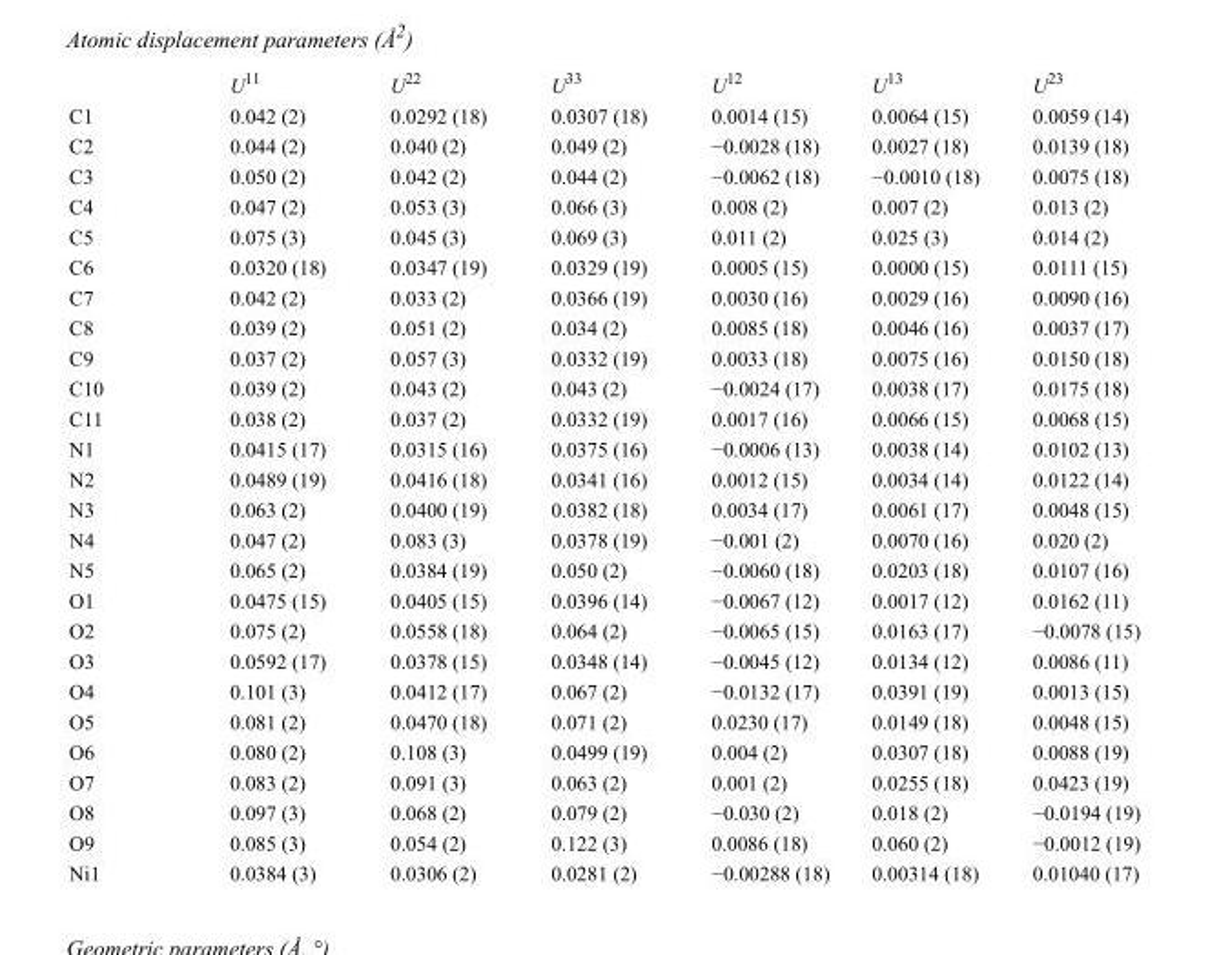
<table><thead><tr><td></td><td>U<sup>11</sup></td><td>U<sup>22</sup></td><td>U<sup>33</sup></td><td>U<sup>12</sup></td><td>U<sup>13</sup></td><td>U<sup>23</sup></td></tr></thead><tbody><tr><td>C1</td><td>0.042 (2)</td><td>0.0292 (18)</td><td>0.0307 (18)</td><td>0.0014 (15)</td><td>0.0064 (15)</td><td>0.0059 (14)</td></tr><tr><td>C2</td><td>0.044 (2)</td><td>0.040 (2)</td><td>0.049 (2)</td><td>−0.0028 (18)</td><td>0.0027 (18)</td><td>0.0139 (18)</td></tr><tr><td>C3</td><td>0.050 (2)</td><td>0.042 (2)</td><td>0.044 (2)</td><td>−0.0062 (18)</td><td>−0.0010 (18)</td><td>0.0075 (18)</td></tr><tr><td>C4</td><td>0.047 (2)</td><td>0.053 (3)</td><td>0.066 (3)</td><td>0.008 (2)</td><td>0.007 (2)</td><td>0.013 (2)</td></tr><tr><td>C5</td><td>0.075 (3)</td><td>0.045 (3)</td><td>0.069 (3)</td><td>0.011 (2)</td><td>0.025 (3)</td><td>0.014 (2)</td></tr><tr><td>C6</td><td>0.0320 (18)</td><td>0.0347 (19)</td><td>0.0329 (19)</td><td>0.0005 (15)</td><td>0.0000 (15)</td><td>0.0111 (15)</td></tr><tr><td>C7</td><td>0.042 (2)</td><td>0.033 (2)</td><td>0.0366 (19)</td><td>0.0030 (16)</td><td>0.0029 (16)</td><td>0.0090 (16)</td></tr><tr><td>C8</td><td>0.039 (2)</td><td>0.051 (2)</td><td>0.034 (2)</td><td>0.0085 (18)</td><td>0.0046 (16)</td><td>0.0037 (17)</td></tr><tr><td>C9</td><td>0.037 (2)</td><td>0.057 (3)</td><td>0.0332 (19)</td><td>0.0033 (18)</td><td>0.0075 (16)</td><td>0.0150 (18)</td></tr><tr><td>C10</td><td>0.039 (2)</td><td>0.043 (2)</td><td>0.043 (2)</td><td>−0.0024 (17)</td><td>0.0038 (17)</td><td>0.0175 (18)</td></tr><tr><td>C11</td><td>0.038 (2)</td><td>0.037 (2)</td><td>0.0332 (19)</td><td>0.0017 (16)</td><td>0.0066 (15)</td><td>0.0068 (15)</td></tr><tr><td>N1</td><td>0.0415 (17)</td><td>0.0315 (16)</td><td>0.0375 (16)</td><td>−0.0006 (13)</td><td>0.0038 (14)</td><td>0.0102 (13)</td></tr><tr><td>N2</td><td>0.0489 (19)</td><td>0.0416 (18)</td><td>0.0341 (16)</td><td>0.0012 (15)</td><td>0.0034 (14)</td><td>0.0122 (14)</td></tr><tr><td>N3</td><td>0.063 (2)</td><td>0.0400 (19)</td><td>0.0382 (18)</td><td>0.0034 (17)</td><td>0.0061 (17)</td><td>0.0048 (15)</td></tr><tr><td>N4</td><td>0.047 (2)</td><td>0.083 (3)</td><td>0.0378 (19)</td><td>−0.001 (2)</td><td>0.0070 (16)</td><td>0.020 (2)</td></tr><tr><td>N5</td><td>0.065 (2)</td><td>0.0384 (19)</td><td>0.050 (2)</td><td>−0.0060 (18)</td><td>0.0203 (18)</td><td>0.0107 (16)</td></tr><tr><td>O1</td><td>0.0475 (15)</td><td>0.0405 (15)</td><td>0.0396 (14)</td><td>−0.0067 (12)</td><td>0.0017 (12)</td><td>0.0162 (11)</td></tr><tr><td>O2</td><td>0.075 (2)</td><td>0.0558 (18)</td><td>0.064 (2)</td><td>−0.0065 (15)</td><td>0.0163 (17)</td><td>−0.0078 (15)</td></tr><tr><td>O3</td><td>0.0592 (17)</td><td>0.0378 (15)</td><td>0.0348 (14)</td><td>−0.0045 (12)</td><td>0.0134 (12)</td><td>0.0086 (11)</td></tr><tr><td>O4</td><td>0.101 (3)</td><td>0.0412 (17)</td><td>0.067 (2)</td><td>−0.0132 (17)</td><td>0.0391 (19)</td><td>0.0013 (15)</td></tr><tr><td>O5</td><td>0.081 (2)</td><td>0.0470 (18)</td><td>0.071 (2)</td><td>0.0230 (17)</td><td>0.0149 (18)</td><td>0.0048 (15)</td></tr><tr><td>O6</td><td>0.080 (2)</td><td>0.108 (3)</td><td>0.0499 (19)</td><td>0.004 (2)</td><td>0.0307 (18)</td><td>0.0088 (19)</td></tr><tr><td>O7</td><td>0.083 (2)</td><td>0.091 (3)</td><td>0.063 (2)</td><td>0.001 (2)</td><td>0.0255 (18)</td><td>0.0423 (19)</td></tr><tr><td>O8</td><td>0.097 (3)</td><td>0.068 (2)</td><td>0.079 (2)</td><td>−0.030 (2)</td><td>0.018 (2)</td><td>−0.0194 (19)</td></tr><tr><td>O9</td><td>0.085 (3)</td><td>0.054 (2)</td><td>0.122 (3)</td><td>0.0086 (18)</td><td>0.060 (2)</td><td>−0.0012 (19)</td></tr><tr><td>Ni1</td><td>0.0384 (3)</td><td>0.0306 (2)</td><td>0.0281 (2)</td><td>−0.00288 (18)</td><td>0.00314 (18)</td><td>0.01040 (17)</td></tr></tbody></table>